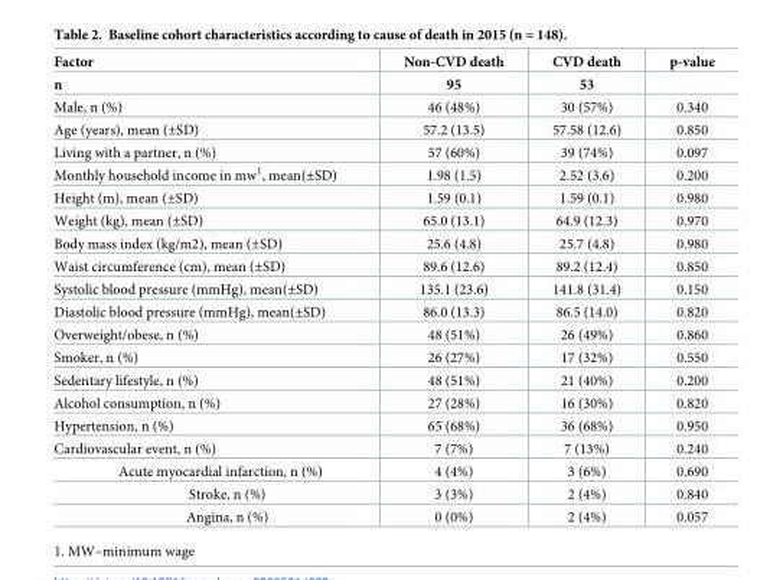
<table><thead><tr><td rowspan="2">Factor n</td><td rowspan="2">Non-CVD death 95</td><td rowspan="2">CVD death 53</td><td rowspan="2">p-value</td></tr><tr></tr></thead><tbody><tr><td>Male, n (%)</td><td>46 (48%)</td><td>30 (57%)</td><td>0.340</td></tr><tr><td>Age (years), mean (±SD)</td><td>57.2 (13.5)</td><td>57.58 (12.6)</td><td>0.850</td></tr><tr><td>Living with a partner, n (%)</td><td>57 (60%)</td><td>39 (74%)</td><td>0.097</td></tr><tr><td>Monthly household income in mw<sup>1</sup>, mean(±SD)</td><td>1.98 (1.5)</td><td>2.52 (3.6)</td><td>0.200</td></tr><tr><td>Height (m), mean (±SD)</td><td>1.59 (0.1)</td><td>1.59 (0.1)</td><td>0.980</td></tr><tr><td>Weight (kg), mean (±SD)</td><td>65.0 (13.1)</td><td>64.9 (12.3)</td><td>0.970</td></tr><tr><td>Body mass index (kg/m2), mean (±SD)</td><td>25.6 (4.8)</td><td>25.7 (4.8)</td><td>0.980</td></tr><tr><td>Waist circumference (cm), mean (±SD)</td><td>89.6 (12.6)</td><td>89.2 (12.4)</td><td>0.850</td></tr><tr><td>Systolic blood pressure (mmHg), mean(±SD)</td><td>135.1 (23.6)</td><td>141.8 (31.4)</td><td>0.150</td></tr><tr><td>Diastolic blood pressure (mmHg), mean(±SD)</td><td>86.0 (13.3)</td><td>86.5 (14.0)</td><td>0.820</td></tr><tr><td>Overweight/obese, n (%)</td><td>48 (51%)</td><td>26 (49%)</td><td>0.860</td></tr><tr><td>Smoker, n (%)</td><td>26 (27%)</td><td>17 (32%)</td><td>0.550</td></tr><tr><td>Sedentary lifestyle, n (%)</td><td>48 (51%)</td><td>21 (40%)</td><td>0.200</td></tr><tr><td>Alcohol consumption, n (%)</td><td>27 (28%)</td><td>16 (30%)</td><td>0.820</td></tr><tr><td>Hypertension, n (%)</td><td>65 (68%)</td><td>36 (68%)</td><td>0.950</td></tr><tr><td>Cardiovascular event, n (%)</td><td>7 (7%)</td><td>7 (13%)</td><td>0.240</td></tr><tr><td>Acute myocardial infarction, n (%)</td><td>4 (4%)</td><td>3 (6%)</td><td>0.690</td></tr><tr><td>Stroke, n (%)</td><td>3 (3%)</td><td>2 (4%)</td><td>0.840</td></tr><tr><td>Angina, n (%)</td><td>0 (0%)</td><td>2 (4%)</td><td>0.057</td></tr></tbody></table>